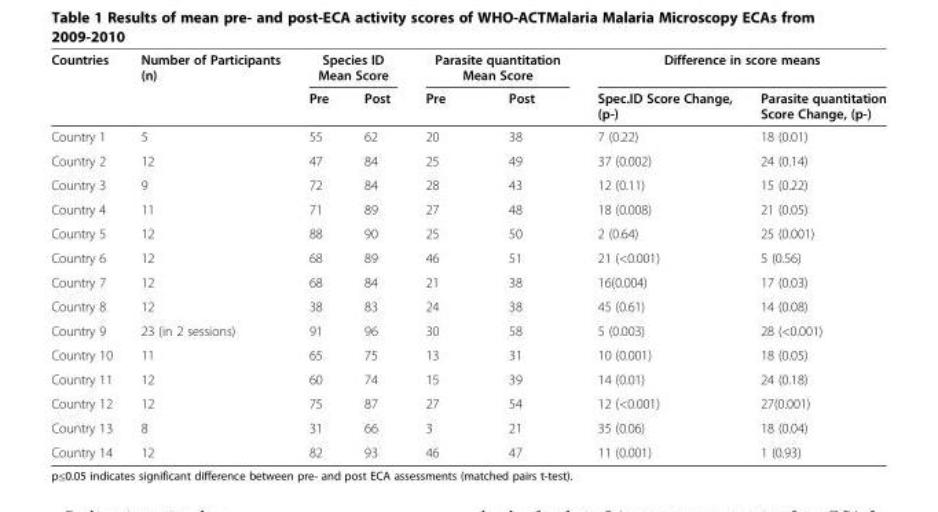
<table><thead><tr><td rowspan="2">Countries</td><td rowspan="2">Number of Participants (n)</td><td colspan="2">Species ID Mean Score</td><td colspan="2">Parasite quantitation Mean Score</td><td colspan="2">Difference in score means</td></tr><tr><td>Pre</td><td>Post</td><td>Pre</td><td>Post</td><td>Spec.ID Score Change, (p-)</td><td>Parasite quantitation Score Change, (p-)</td></tr></thead><tbody><tr><td>Country 1</td><td>5</td><td>55</td><td>62</td><td>20</td><td>38</td><td>7 (0.22)</td><td>18 (0.01)</td></tr><tr><td>Country 2</td><td>12</td><td>47</td><td>84</td><td>25</td><td>49</td><td>37 (0.002)</td><td>24 (0.14)</td></tr><tr><td>Country 3</td><td>9</td><td>72</td><td>84</td><td>28</td><td>43</td><td>12 (0.11)</td><td>15 (0.22)</td></tr><tr><td>Country 4</td><td>11</td><td>71</td><td>89</td><td>27</td><td>48</td><td>18 (0.008)</td><td>21 (0.05)</td></tr><tr><td>Country 5</td><td>12</td><td>88</td><td>90</td><td>25</td><td>50</td><td>2 (0.64)</td><td>25 (0.001)</td></tr><tr><td>Country 6</td><td>12</td><td>68</td><td>89</td><td>46</td><td>51</td><td>21 (&lt;0.001)</td><td>5 (0.56)</td></tr><tr><td>Country 7</td><td>12</td><td>68</td><td>84</td><td>21</td><td>38</td><td>16(0.004)</td><td>17 (0.03)</td></tr><tr><td>Country 8</td><td>12</td><td>38</td><td>83</td><td>24</td><td>38</td><td>45 (0.61)</td><td>14 (0.08)</td></tr><tr><td>Country 9</td><td>23 (in 2 sessions)</td><td>91</td><td>96</td><td>30</td><td>58</td><td>5 (0.003)</td><td>28 (&lt;0.001)</td></tr><tr><td>Country 10</td><td>11</td><td>65</td><td>75</td><td>13</td><td>31</td><td>10 (0.001)</td><td>18 (0.05)</td></tr><tr><td>Country 11</td><td>12</td><td>60</td><td>74</td><td>15</td><td>39</td><td>14 (0.01)</td><td>24 (0.18)</td></tr><tr><td>Country 12</td><td>12</td><td>75</td><td>87</td><td>27</td><td>54</td><td>12 (&lt;0.001)</td><td>27(0.001)</td></tr><tr><td>Country 13</td><td>8</td><td>31</td><td>66</td><td>3</td><td>21</td><td>35 (0.06)</td><td>18 (0.04)</td></tr><tr><td>Country 14</td><td>12</td><td>82</td><td>93</td><td>46</td><td>47</td><td>11 (0.001)</td><td>1 (0.93)</td></tr></tbody></table>